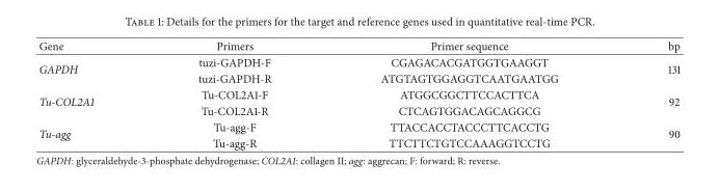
<table><thead><tr><td>Gene</td><td>Primers</td><td>Primer sequence</td><td>bp</td></tr></thead><tbody><tr><td rowspan="2">GAPDH</td><td>tuzi-GAPDH-F</td><td>CGAGACACGATGGTGAAGGT</td><td rowspan="2">131</td></tr><tr><td>tuzi-GAPDH-R</td><td>ATGTAGTGGAGGTCAATGAATGG</td></tr><tr><td rowspan="2">Tu-COL2A1</td><td>Tu-COL2A1-F</td><td>ATGGCGGCTTCCACTTCA</td><td rowspan="2">92</td></tr><tr><td>Tu-COL2A1-R</td><td>CTCAGTGGACAGCAGGCG</td></tr><tr><td rowspan="2">Tu-agg</td><td>Tu-agg-F</td><td>TTACCACCTACCCTTCACCTG</td><td rowspan="2">90</td></tr><tr><td>Tu-agg-R</td><td>TTCTTCTGTCCAAAGGTCCTG</td></tr></tbody></table>